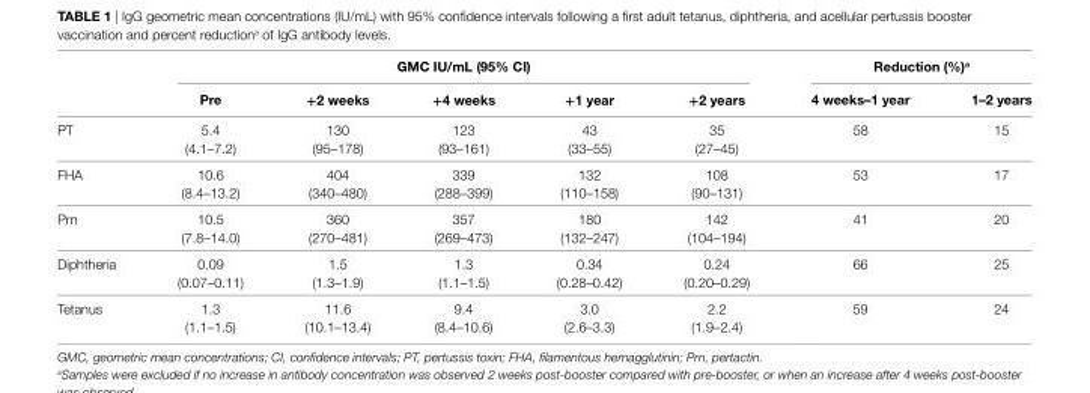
<table><thead><tr><td rowspan="2"></td><td colspan="5">gMC iU/ml (95% Ci)</td><td colspan="2">reduction (%)<sup>a</sup></td></tr><tr><td>Pre</td><td>+2 weeks</td><td>+4 weeks</td><td>+1 year</td><td>+2 years</td><td>4 weeks–1 year</td><td>1–2 years</td></tr></thead><tbody><tr><td rowspan="2">PT</td><td>5.4</td><td>130</td><td>123</td><td>43</td><td>35</td><td>58</td><td>15</td></tr><tr><td>(4.1–7.2)</td><td>(95–178)</td><td>(93–161)</td><td>(33–55)</td><td>(27–45)</td><td></td><td></td></tr><tr><td rowspan="2">FHA</td><td>10.6</td><td>404</td><td>339</td><td>132</td><td>108</td><td>53</td><td>17</td></tr><tr><td>(8.4–13.2)</td><td>(340–480)</td><td>(288–399)</td><td>(110–158)</td><td>(90–131)</td><td></td><td></td></tr><tr><td rowspan="2">Prn</td><td>10.5</td><td>360</td><td>357</td><td>180</td><td>142</td><td>41</td><td>20</td></tr><tr><td>(7.8–14.0)</td><td>(270–481)</td><td>(269–473)</td><td>(132–247)</td><td>(104–194)</td><td></td><td></td></tr><tr><td rowspan="2">Diphtheria</td><td>0.09</td><td>1.5</td><td>1.3</td><td>0.34</td><td>0.24</td><td>66</td><td>25</td></tr><tr><td>(0.07–0.11)</td><td>(1.3–1.9)</td><td>(1.1–1.5)</td><td>(0.28–0.42)</td><td>(0.20–0.29)</td><td></td><td></td></tr><tr><td rowspan="2">Tetanus</td><td>1.3</td><td>11.6</td><td>9.4</td><td>3.0</td><td>2.2</td><td>59</td><td>24</td></tr><tr><td>(1.1–1.5)</td><td>(10.1–13.4)</td><td>(8.4–10.6)</td><td>(2.6–3.3)</td><td>(1.9–2.4)</td><td></td><td></td></tr></tbody></table>